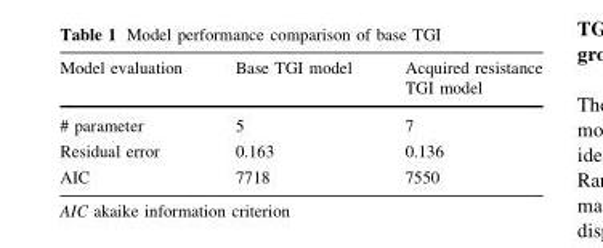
<table><thead><tr><td>Model evaluation</td><td>Base TGI model</td><td>Acquired resistance TGI model</td></tr></thead><tbody><tr><td># parameter</td><td>5</td><td>7</td></tr><tr><td>Residual error</td><td>0.163</td><td>0.136</td></tr><tr><td>AIC</td><td>7718</td><td>7550</td></tr></tbody></table>